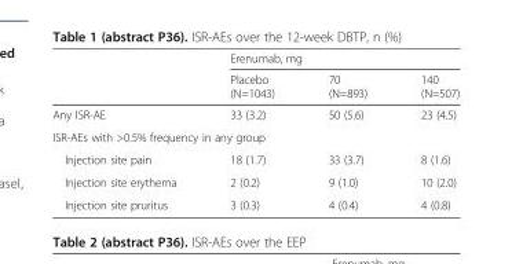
<table><thead><tr><td rowspan="2"></td><td colspan="3">Erenumab, mg</td></tr><tr><td>Placebo (N=1043)</td><td>70 (N=893)</td><td>140 (N=507)</td></tr></thead><tbody><tr><td>Any ISR-AE</td><td>33 (3.2)</td><td>50 (5.6)</td><td>23 (4.5)</td></tr><tr><td colspan="4">ISR-AEs with &gt;0.5% frequency in any group</td></tr><tr><td>Injection site pain</td><td>18 (1.7)</td><td>33 (3.7)</td><td>8 (1.6)</td></tr><tr><td>Injection site erythema</td><td>2 (0.2)</td><td>9 (1.0)</td><td>10 (2.0)</td></tr><tr><td>Injection site pruritus</td><td>3 (0.3)</td><td>4 (0.4)</td><td>4 (0.8)</td></tr></tbody></table>